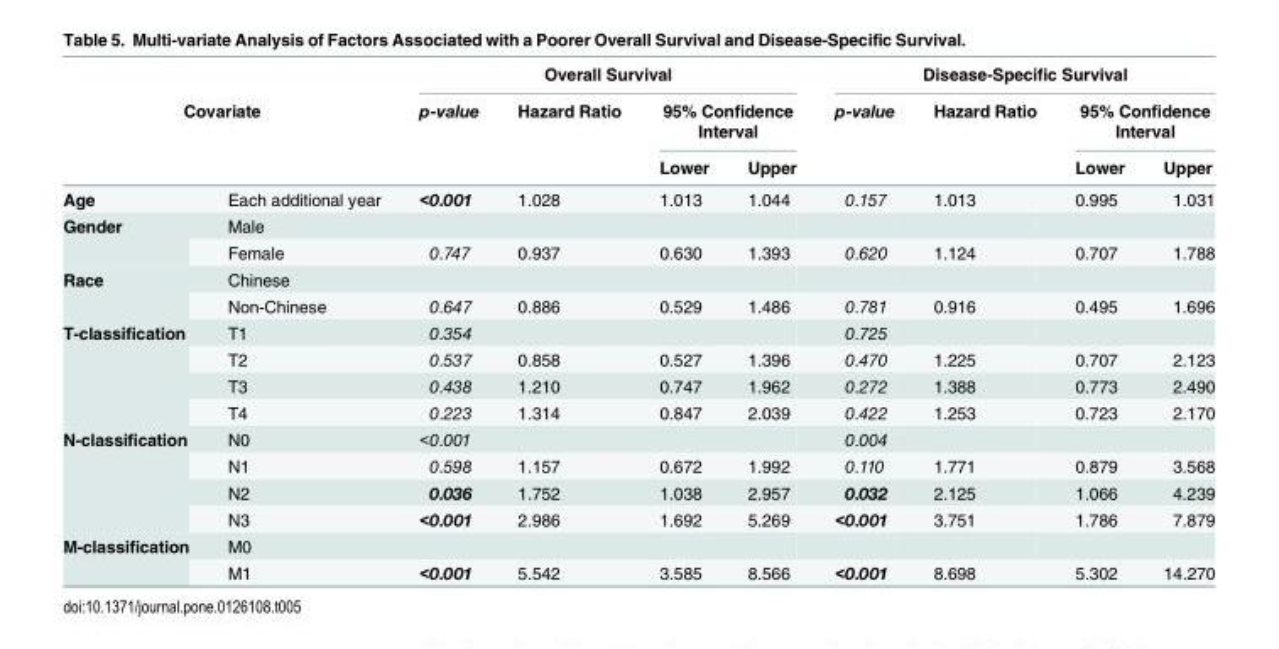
<table><thead><tr><td></td><td></td><td colspan="4">Overall Survival</td><td colspan="4">Disease-Specific Survival</td></tr><tr><td rowspan="2" colspan="2">Covariate</td><td rowspan="2">p-value</td><td rowspan="2">Hazard Ratio</td><td colspan="2">95% Confidence Interval</td><td rowspan="2">p-value</td><td rowspan="2">Hazard Ratio</td><td colspan="2">95% Confidence Interval</td></tr><tr><td>Lower</td><td>Upper</td><td>Lower</td><td>Upper</td></tr></thead><tbody><tr><td>Age</td><td>Each additional year</td><td>&lt;0.001</td><td>1.028</td><td>1.013</td><td>1.044</td><td>0.157</td><td>1.013</td><td>0.995</td><td>1.031</td></tr><tr><td rowspan="2">Gender</td><td>Male</td><td></td><td></td><td></td><td></td><td></td><td></td><td></td><td></td></tr><tr><td>Female</td><td>0.747</td><td>0.937</td><td>0.630</td><td>1.393</td><td>0.620</td><td>1.124</td><td>0.707</td><td>1.788</td></tr><tr><td rowspan="2">Race</td><td>Chinese</td><td></td><td></td><td></td><td></td><td></td><td></td><td></td><td></td></tr><tr><td>Non-Chinese</td><td>0.647</td><td>0.886</td><td>0.529</td><td>1.486</td><td>0.781</td><td>0.916</td><td>0.495</td><td>1.696</td></tr><tr><td rowspan="4">T-classification</td><td>T1</td><td>0.354</td><td></td><td></td><td></td><td>0.725</td><td></td><td></td><td></td></tr><tr><td>T2</td><td>0.537</td><td>0.858</td><td>0.527</td><td>1.396</td><td>0.470</td><td>1.225</td><td>0.707</td><td>2.123</td></tr><tr><td>T3</td><td>0.438</td><td>1.210</td><td>0.747</td><td>1.962</td><td>0.272</td><td>1.388</td><td>0.773</td><td>2.490</td></tr><tr><td>T4</td><td>0.223</td><td>1.314</td><td>0.847</td><td>2.039</td><td>0.422</td><td>1.253</td><td>0.723</td><td>2.170</td></tr><tr><td rowspan="4">N-classification</td><td>N0</td><td>&lt;0.001</td><td></td><td></td><td></td><td>0.004</td><td></td><td></td><td></td></tr><tr><td>N1</td><td>0.598</td><td>1.157</td><td>0.672</td><td>1.992</td><td>0.110</td><td>1.771</td><td>0.879</td><td>3.568</td></tr><tr><td>N2</td><td>0.036</td><td>1.752</td><td>1.038</td><td>2.957</td><td>0.032</td><td>2.125</td><td>1.066</td><td>4.239</td></tr><tr><td>N3</td><td>&lt;0.001</td><td>2.986</td><td>1.692</td><td>5.269</td><td>&lt;0.001</td><td>3.751</td><td>1.786</td><td>7.879</td></tr><tr><td rowspan="2">M-classification</td><td>M0</td><td></td><td></td><td></td><td></td><td></td><td></td><td></td><td></td></tr><tr><td>M1</td><td>&lt;0.001</td><td>5.542</td><td>3.585</td><td>8.566</td><td>&lt;0.001</td><td>8.698</td><td>5.302</td><td>14.270</td></tr></tbody></table>